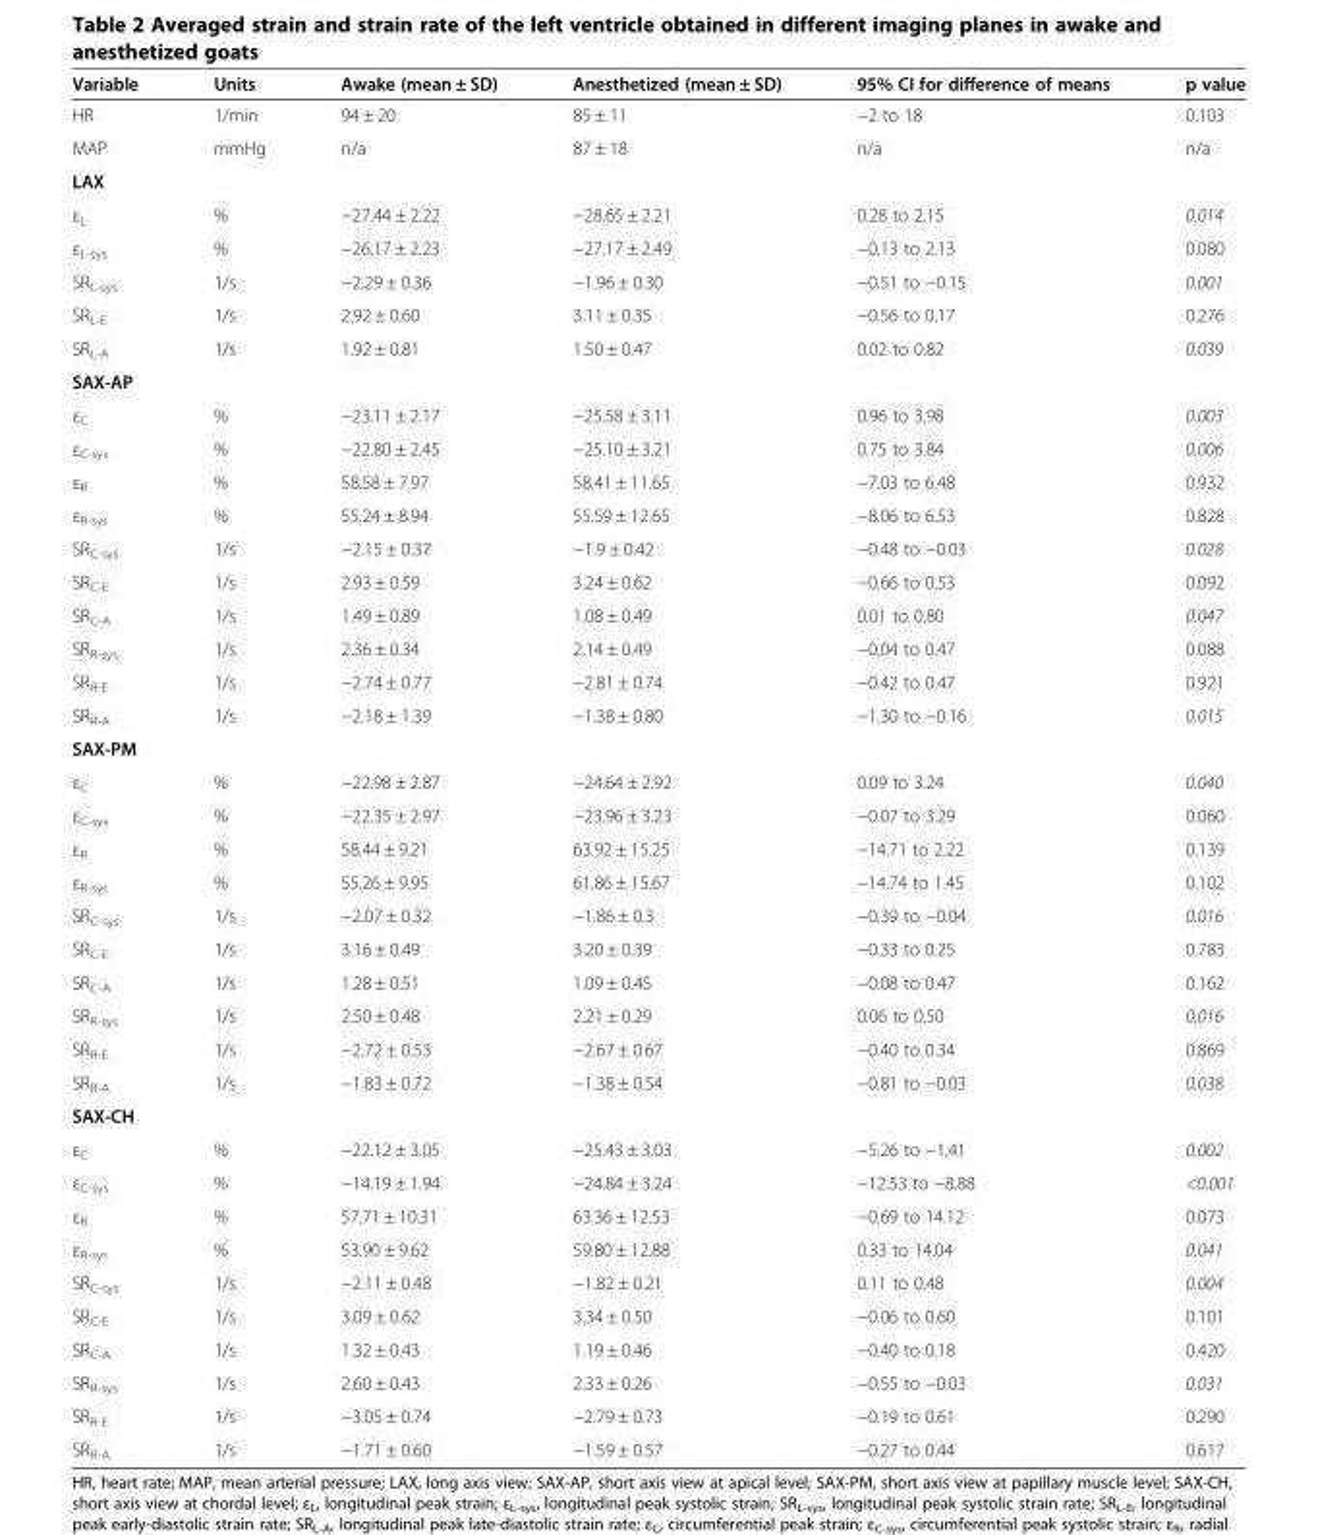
<table><thead><tr><td>Variable</td><td>Units</td><td>Awake (mean ± SD)</td><td>Anesthetized (mean ± SD)</td><td>95% CI for difference of means</td><td>p value</td></tr></thead><tbody><tr><td>HR</td><td>1/min</td><td>94 ± 20</td><td>85 ± 11</td><td>−2 to 18</td><td>0.103</td></tr><tr><td>MAP</td><td>mmHg</td><td>n/a</td><td>87 ± 18</td><td>n/a</td><td>n/a</td></tr><tr><td colspan="6">LAX</td></tr><tr><td>ε<sub>L</sub></td><td>%</td><td>−27.44 ± 2.22</td><td>−28.65 ± 2.21</td><td>0.28 to 2.15</td><td>0.014</td></tr><tr><td>ε<sub>L-sys</sub></td><td>%</td><td>−26.17 ± 2.23</td><td>−27.17 ± 2.49</td><td>−0.13 to 2.13</td><td>0.080</td></tr><tr><td>SR<sub>L-sys</sub></td><td>1/s</td><td>−2.29 ± 0.36</td><td>−1.96 ± 0.30</td><td>−0.51 to −0.15</td><td>0.001</td></tr><tr><td>SR<sub>L-E</sub></td><td>1/s</td><td>2.92 ± 0.60</td><td>3.11 ± 0.35</td><td>−0.56 to 0.17</td><td>0.276</td></tr><tr><td>SR<sub>L-A</sub></td><td>1/s</td><td>1.92 ± 0.81</td><td>1.50 ± 0.47</td><td>0.02 to 0.82</td><td>0.039</td></tr><tr><td colspan="6">SAX-AP</td></tr><tr><td>ε<sub>C</sub></td><td>%</td><td>−23.11 ± 2.17</td><td>−25.58 ± 3.11</td><td>0.96 to 3.98</td><td>0.003</td></tr><tr><td>ε<sub>C-sys</sub></td><td>%</td><td>−22.80 ± 2.45</td><td>−25.10 ± 3.21</td><td>0.75 to 3.84</td><td>0.006</td></tr><tr><td>ε<sub>R</sub></td><td>%</td><td>58.58 ± 7.97</td><td>58.41 ± 11.65</td><td>−7.03 to 6.48</td><td>0.932</td></tr><tr><td>ε<sub>R-sys</sub></td><td>%</td><td>55.24 ± 8.94</td><td>55.59 ± 12.65</td><td>−8.06 to 6.53</td><td>0.828</td></tr><tr><td>SR<sub>C-sys</sub></td><td>1/s</td><td>−2.15 ± 0.37</td><td>−1.9 ± 0.42</td><td>−0.48 to −0.03</td><td>0.028</td></tr><tr><td>SR<sub>C-E</sub></td><td>1/s</td><td>2.93 ± 0.59</td><td>3.24 ± 0.62</td><td>−0.66 to 0.53</td><td>0.092</td></tr><tr><td>SR<sub>C-A</sub></td><td>1/s</td><td>1.49 ± 0.89</td><td>1.08 ± 0.49</td><td>0.01 to 0.80</td><td>0.047</td></tr><tr><td>SR<sub>R-sys</sub></td><td>1/s</td><td>2.36 ± 0.34</td><td>2.14 ± 0.49</td><td>−0.04 to 0.47</td><td>0.088</td></tr><tr><td>SR<sub>R-E</sub></td><td>1/s</td><td>−2.74 ± 0.77</td><td>−2.81 ± 0.74</td><td>−0.42 to 0.47</td><td>0.921</td></tr><tr><td>SR<sub>R-A</sub></td><td>1/s</td><td>−2.18 ± 1.39</td><td>−1.38 ± 0.80</td><td>−1.30 to −0.16</td><td>0.015</td></tr><tr><td colspan="6">SAX-PM</td></tr><tr><td>ε<sub>C</sub></td><td>%</td><td>−22.98 ± 2.87</td><td>−24.64 ± 2.92</td><td>0.09 to 3.24</td><td>0.040</td></tr><tr><td>ε<sub>C-sys</sub></td><td>%</td><td>−22.35 ± 2.97</td><td>−23.96 ± 3.23</td><td>−0.07 to 3.29</td><td>0.060</td></tr><tr><td>ε<sub>R</sub></td><td>%</td><td>58.44 ± 9.21</td><td>63.92 ± 15.25</td><td>−14.71 to 2.22</td><td>0.139</td></tr><tr><td>ε<sub>R-sys</sub></td><td>%</td><td>55.26 ± 9.95</td><td>61.86 ± 15.67</td><td>−14.74 to 1.45</td><td>0.102</td></tr><tr><td>SR<sub>C-sys</sub></td><td>1/s</td><td>−2.07 ± 0.32</td><td>−1.86 ± 0.3</td><td>−0.39 to −0.04</td><td>0.016</td></tr><tr><td>SR<sub>C-E</sub></td><td>1/s</td><td>3.16 ± 0.49</td><td>3.20 ± 0.39</td><td>−0.33 to 0.25</td><td>0.783</td></tr><tr><td>SR<sub>C-A</sub></td><td>1/s</td><td>1.28 ± 0.51</td><td>1.09 ± 0.45</td><td>−0.08 to 0.47</td><td>0.162</td></tr><tr><td>SR<sub>R-sys</sub></td><td>1/s</td><td>2.50 ± 0.48</td><td>2.21 ± 0.29</td><td>0.06 to 0.50</td><td>0.016</td></tr><tr><td>SR<sub>R-E</sub></td><td>1/s</td><td>−2.72 ± 0.53</td><td>−2.67 ± 0.67</td><td>−0.40 to 0.34</td><td>0.869</td></tr><tr><td>SR<sub>R-A</sub></td><td>1/s</td><td>−1.83 ± 0.72</td><td>−1.38 ± 0.54</td><td>−0.81 to −0.03</td><td>0.038</td></tr><tr><td colspan="6">SAX-CH</td></tr><tr><td>ε<sub>C</sub></td><td>%</td><td>−22.12 ± 3.05</td><td>−25.43 ± 3.03</td><td>−5.26 to −1.41</td><td>0.002</td></tr><tr><td>ε<sub>C-sys</sub></td><td>%</td><td>−14.19 ± 1.94</td><td>−24.84 ± 3.24</td><td>−12.53 to −8.88</td><td>&lt;0.001</td></tr><tr><td>ε<sub>R</sub></td><td>%</td><td>57.71 ± 10.31</td><td>63.36 ± 12.53</td><td>−0.69 to 14.12</td><td>0.073</td></tr><tr><td>ε<sub>R-sys</sub></td><td>%</td><td>53.90 ± 9.62</td><td>59.80 ± 12.88</td><td>0.33 to 14.04</td><td>0.041</td></tr><tr><td>SR<sub>C-sys</sub></td><td>1/s</td><td>−2.11 ± 0.48</td><td>−1.82 ± 0.21</td><td>0.11 to 0.48</td><td>0.004</td></tr><tr><td>SR<sub>C-E</sub></td><td>1/s</td><td>3.09 ± 0.62</td><td>3.34 ± 0.50</td><td>−0.06 to 0.60</td><td>0.101</td></tr><tr><td>SR<sub>C-A</sub></td><td>1/s</td><td>1.32 ± 0.43</td><td>1.19 ± 0.46</td><td>−0.40 to 0.18</td><td>0.420</td></tr><tr><td>SR<sub>R-sys</sub></td><td>1/s</td><td>2.60 ± 0.43</td><td>2.33 ± 0.26</td><td>−0.55 to −0.03</td><td>0.031</td></tr><tr><td>SR<sub>R-E</sub></td><td>1/s</td><td>−3.05 ± 0.74</td><td>−2.79 ± 0.73</td><td>−0.19 to 0.61</td><td>0.290</td></tr><tr><td>SR<sub>R-A</sub></td><td>1/s</td><td>−1.71 ± 0.60</td><td>−1.59 ± 0.57</td><td>−0.27 to 0.44</td><td>0.617</td></tr></tbody></table>